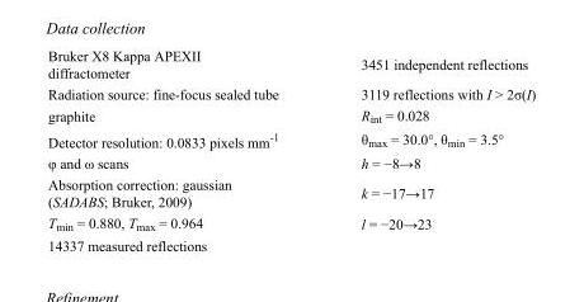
<table><tbody><tr><td>Bruker X8 Kappa APEXII diffractometer</td><td>3451 independent reflections</td></tr><tr><td>Radiation source: fine-focus sealed tube</td><td>3119 reflections with I &gt; 2σ(I)</td></tr><tr><td>graphite</td><td>R<sub>int</sub> = 0.028</td></tr><tr><td>Detector resolution: 0.0833 pixels mm<sup>-1</sup></td><td>θ<sub>max</sub> = 30.0°, θ<sub>min</sub> = 3.5°</td></tr><tr><td>φ and ω scans</td><td>h = −8→8</td></tr><tr><td>Absorption correction: gaussian (SADABS; Bruker, 2009)</td><td>k = −17→17</td></tr><tr><td>T<sub>min</sub> = 0.880, T<sub>max</sub> = 0.964</td><td>l = −20→23</td></tr><tr><td>14337 measured reflections</td><td></td></tr></tbody></table>